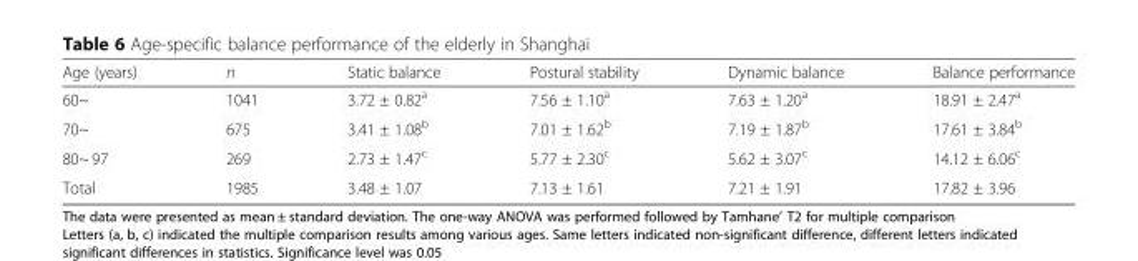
<table><thead><tr><td>Age (years)</td><td>n</td><td>Static balance</td><td>Postural stability</td><td>Dynamic balance</td><td>Balance performance</td></tr></thead><tbody><tr><td>60~</td><td>1041</td><td>3.72 ± 0.82<sup>a</sup></td><td>7.56 ± 1.10<sup>a</sup></td><td>7.63 ± 1.20<sup>a</sup></td><td>18.91 ± 2.47<sup>a</sup></td></tr><tr><td>70~</td><td>675</td><td>3.41 ± 1.08<sup>b</sup></td><td>7.01 ± 1.62<sup>b</sup></td><td>7.19 ± 1.87<sup>b</sup></td><td>17.61 ± 3.84<sup>b</sup></td></tr><tr><td>80~ 97</td><td>269</td><td>2.73 ± 1.47<sup>c</sup></td><td>5.77 ± 2.30<sup>c</sup></td><td>5.62 ± 3.07<sup>c</sup></td><td>14.12 ± 6.06<sup>c</sup></td></tr><tr><td>Total</td><td>1985</td><td>3.48 ± 1.07</td><td>7.13 ± 1.61</td><td>7.21 ± 1.91</td><td>17.82 ± 3.96</td></tr></tbody></table>